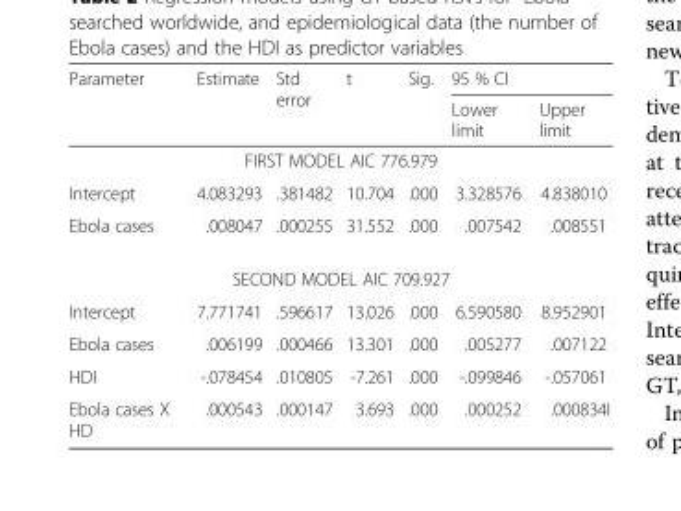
<table><thead><tr><td rowspan="2">Parameter</td><td rowspan="2">Estimate</td><td rowspan="2">Std error</td><td rowspan="2">t</td><td rowspan="2">Sig.</td><td colspan="2">95 % CI</td></tr><tr><td>Lower limit</td><td>Upper limit</td></tr></thead><tbody><tr><td colspan="7">FIRST MODEL AIC 776.979</td></tr><tr><td>Intercept</td><td>4.083293</td><td>.381482</td><td>10.704</td><td>.000</td><td>3.328576</td><td>4.838010</td></tr><tr><td>Ebola cases</td><td>.008047</td><td>.000255</td><td>31.552</td><td>.000</td><td>.007542</td><td>.008551</td></tr><tr><td colspan="7">SECOND MODEL AIC 709.927</td></tr><tr><td>Intercept</td><td>7.771741</td><td>.596617</td><td>13.026</td><td>.000</td><td>6.590580</td><td>8.952901</td></tr><tr><td>Ebola cases</td><td>.006199</td><td>.000466</td><td>13.301</td><td>.000</td><td>.005277</td><td>.007122</td></tr><tr><td>HDI</td><td>-.078454</td><td>.010805</td><td>-7.261</td><td>.000</td><td>-.099846</td><td>-.057061</td></tr><tr><td>Ebola cases X HD</td><td>.000543</td><td>.000147</td><td>3.693</td><td>.000</td><td>.000252</td><td>.000834I</td></tr></tbody></table>